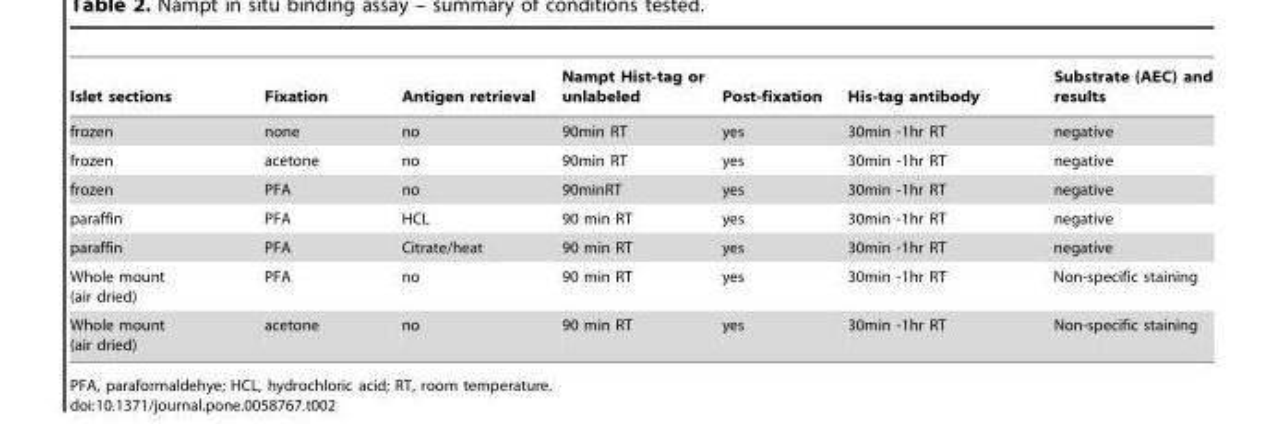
<table><thead><tr><td>Islet sections</td><td>Fixation</td><td>Antigen retrieval</td><td>Nampt Hist-tag or unlabeled</td><td>Post-fixation</td><td>His-tag antibody</td><td>Substrate (AEC) and results</td></tr></thead><tbody><tr><td>frozen</td><td>none</td><td>no</td><td>90min RT</td><td>yes</td><td>30min -1hr RT</td><td>negative</td></tr><tr><td>frozen</td><td>acetone</td><td>no</td><td>90min RT</td><td>yes</td><td>30min -1hr RT</td><td>negative</td></tr><tr><td>frozen</td><td>PFA</td><td>no</td><td>90minRT</td><td>yes</td><td>30min -1hr RT</td><td>negative</td></tr><tr><td>paraffin</td><td>PFA</td><td>HCL</td><td>90 min RT</td><td>yes</td><td>30min -1hr RT</td><td>negative</td></tr><tr><td>paraffin</td><td>PFA</td><td>Citrate/heat</td><td>90 min RT</td><td>yes</td><td>30min -1hr RT</td><td>negative</td></tr><tr><td>Whole mount (air dried)</td><td>PFA</td><td>no</td><td>90 min RT</td><td>yes</td><td>30min -1hr RT</td><td>Non-specific staining</td></tr><tr><td>Whole mount (air dried)</td><td>acetone</td><td>no</td><td>90 min RT</td><td>yes</td><td>30min -1hr RT</td><td>Non-specific staining</td></tr></tbody></table>